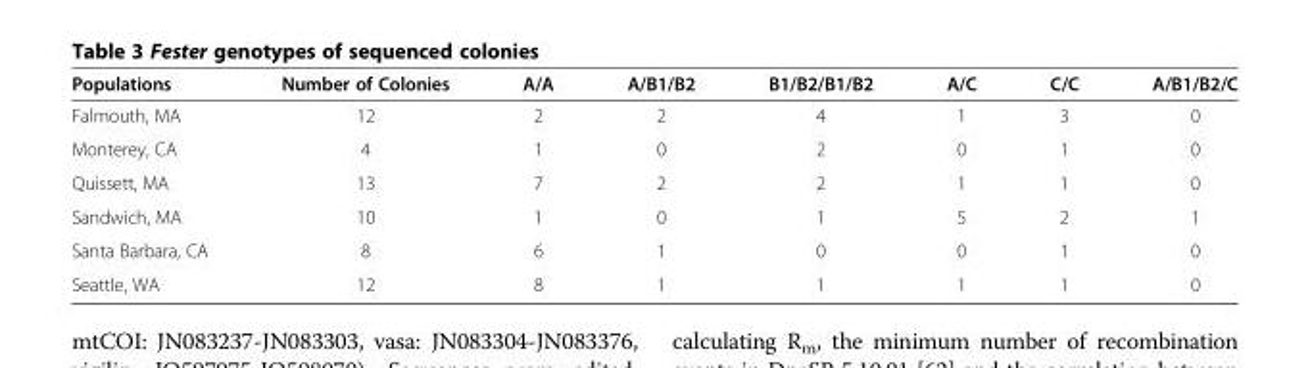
<table><thead><tr><td>Populations</td><td>Number of Colonies</td><td>A/A</td><td>A/B1/B2</td><td>B1/B2/B1/B2</td><td>A/C</td><td>C/C</td><td>A/B1/B2/C</td></tr></thead><tbody><tr><td>Falmouth, MA</td><td>12</td><td>2</td><td>2</td><td>4</td><td>1</td><td>3</td><td>0</td></tr><tr><td>Monterey, CA</td><td>4</td><td>1</td><td>0</td><td>2</td><td>0</td><td>1</td><td>0</td></tr><tr><td>Quissett, MA</td><td>13</td><td>7</td><td>2</td><td>2</td><td>1</td><td>1</td><td>0</td></tr><tr><td>Sandwich, MA</td><td>10</td><td>1</td><td>0</td><td>1</td><td>5</td><td>2</td><td>1</td></tr><tr><td>Santa Barbara, CA</td><td>8</td><td>6</td><td>1</td><td>0</td><td>0</td><td>1</td><td>0</td></tr><tr><td>Seattle, WA</td><td>12</td><td>8</td><td>1</td><td>1</td><td>1</td><td>1</td><td>0</td></tr></tbody></table>